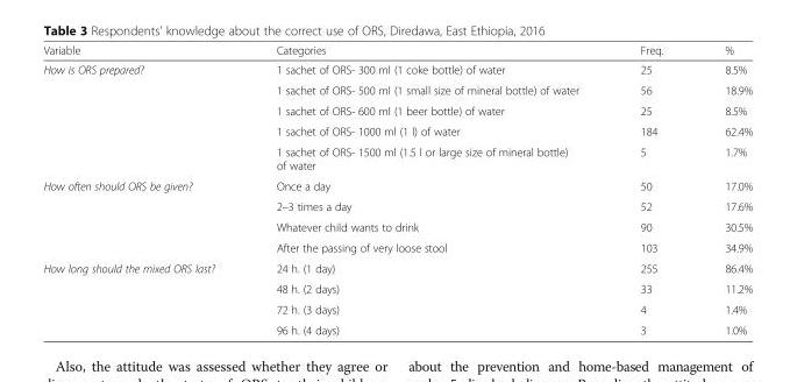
<table><thead><tr><td>Variable</td><td>Categories</td><td>Freq.</td><td>%</td></tr></thead><tbody><tr><td rowspan="5">How is ORS prepared?</td><td>1 sachet of ORS- 300 ml (1 coke bottle) of water</td><td>25</td><td>8.5%</td></tr><tr><td>1 sachet of ORS- 500 ml (1 small size of mineral bottle) of water</td><td>56</td><td>18.9%</td></tr><tr><td>1 sachet of ORS- 600 ml (1 beer bottle) of water</td><td>25</td><td>8.5%</td></tr><tr><td>1 sachet of ORS- 1000 ml (1 l) of water</td><td>184</td><td>62.4%</td></tr><tr><td>1 sachet of ORS- 1500 ml (1.5 l or large size of mineral bottle) of water</td><td>5</td><td>1.7%</td></tr><tr><td rowspan="4">How often should ORS be given?</td><td>Once a day</td><td>50</td><td>17.0%</td></tr><tr><td>2–3 times a day</td><td>52</td><td>17.6%</td></tr><tr><td>Whatever child wants to drink</td><td>90</td><td>30.5%</td></tr><tr><td>After the passing of very loose stool</td><td>103</td><td>34.9%</td></tr><tr><td rowspan="4">How long should the mixed ORS last?</td><td>24 h. (1 day)</td><td>255</td><td>86.4%</td></tr><tr><td>48 h. (2 days)</td><td>33</td><td>11.2%</td></tr><tr><td>72 h. (3 days)</td><td>4</td><td>1.4%</td></tr><tr><td>96 h. (4 days)</td><td>3</td><td>1.0%</td></tr></tbody></table>